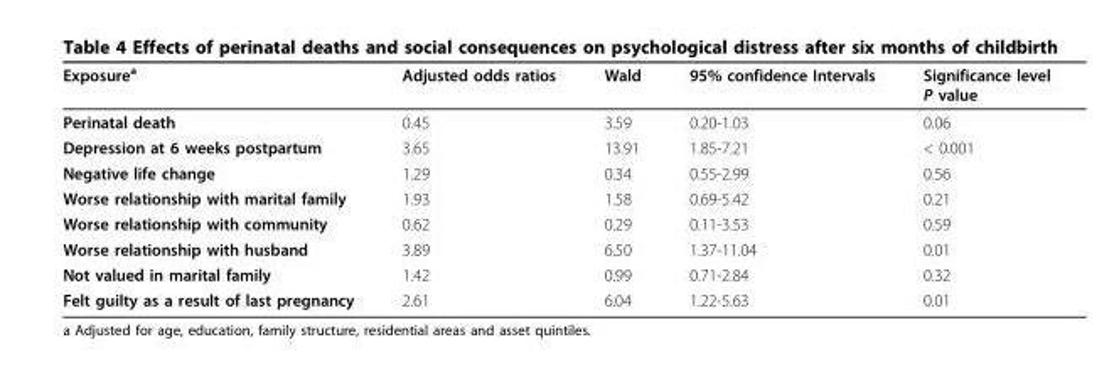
<table><thead><tr><td>Exposure<sup>a</sup></td><td>Adjusted odds ratios</td><td>Wald</td><td>95% confidence Intervals</td><td>Significance level P value</td></tr></thead><tbody><tr><td>Perinatal death</td><td>0.45</td><td>3.59</td><td>0.20-1.03</td><td>0.06</td></tr><tr><td>Depression at 6 weeks postpartum</td><td>3.65</td><td>13.91</td><td>1.85-7.21</td><td>&lt; 0.001</td></tr><tr><td>Negative life change</td><td>1.29</td><td>0.34</td><td>0.55-2.99</td><td>0.56</td></tr><tr><td>Worse relationship with marital family</td><td>1.93</td><td>1.58</td><td>0.69-5.42</td><td>0.21</td></tr><tr><td>Worse relationship with community</td><td>0.62</td><td>0.29</td><td>0.11-3.53</td><td>0.59</td></tr><tr><td>Worse relationship with husband</td><td>3.89</td><td>6.50</td><td>1.37-11.04</td><td>0.01</td></tr><tr><td>Not valued in marital family</td><td>1.42</td><td>0.99</td><td>0.71-2.84</td><td>0.32</td></tr><tr><td>Felt guilty as a result of last pregnancy</td><td>2.61</td><td>6.04</td><td>1.22-5.63</td><td>0.01</td></tr></tbody></table>